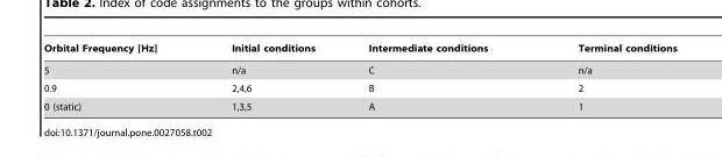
<table><thead><tr><td>Orbital Frequency [Hz]</td><td>Initial conditions</td><td>Intermediate conditions</td><td>Terminal conditions</td></tr></thead><tbody><tr><td>5</td><td>n/a</td><td>C</td><td>n/a</td></tr><tr><td>0.9</td><td>2,4,6</td><td>B</td><td>2</td></tr><tr><td>0 (static)</td><td>1,3,5</td><td>A</td><td>1</td></tr></tbody></table>